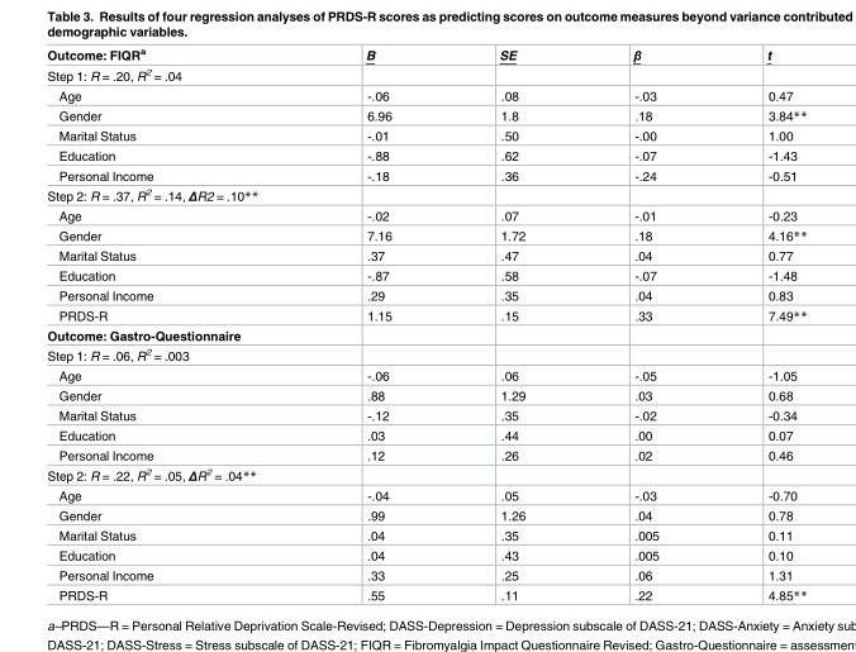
<table><thead><tr><td>Outcome: FIQR<sup>a</sup></td><td>B</td><td>SE</td><td>β</td><td>t</td></tr></thead><tbody><tr><td colspan="5">Step 1: R = .20, R<sup>2</sup> = .04</td></tr><tr><td>Age</td><td>-.06</td><td>.08</td><td>-.03</td><td>0.47</td></tr><tr><td>Gender</td><td>6.96</td><td>1.8</td><td>.18</td><td>3.84**</td></tr><tr><td>Marital Status</td><td>-.01</td><td>.50</td><td>-.00</td><td>1.00</td></tr><tr><td>Education</td><td>-.88</td><td>.62</td><td>-.07</td><td>-1.43</td></tr><tr><td>Personal Income</td><td>-.18</td><td>.36</td><td>-.24</td><td>-0.51</td></tr><tr><td colspan="5">Step 2: R = .37, R<sup>2</sup> = .14, ΔR2 = .10**</td></tr><tr><td>Age</td><td>-.02</td><td>.07</td><td>-.01</td><td>-0.23</td></tr><tr><td>Gender</td><td>7.16</td><td>1.72</td><td>.18</td><td>4.16**</td></tr><tr><td>Marital Status</td><td>.37</td><td>.47</td><td>.04</td><td>0.77</td></tr><tr><td>Education</td><td>-.87</td><td>.58</td><td>-.07</td><td>-1.48</td></tr><tr><td>Personal Income</td><td>.29</td><td>.35</td><td>.04</td><td>0.83</td></tr><tr><td>PRDS-R</td><td>1.15</td><td>.15</td><td>.33</td><td>7.49**</td></tr><tr><td colspan="5">Outcome: Gastro-Questionnaire</td></tr><tr><td colspan="5">Step 1: R = .06, R<sup>2</sup> = .003</td></tr><tr><td>Age</td><td>-.06</td><td>.06</td><td>-.05</td><td>-1.05</td></tr><tr><td>Gender</td><td>.88</td><td>1.29</td><td>.03</td><td>0.68</td></tr><tr><td>Marital Status</td><td>-.12</td><td>.35</td><td>-.02</td><td>-0.34</td></tr><tr><td>Education</td><td>.03</td><td>.44</td><td>.00</td><td>0.07</td></tr><tr><td>Personal Income</td><td>.12</td><td>.26</td><td>.02</td><td>0.46</td></tr><tr><td colspan="5">Step 2: R = .22, R<sup>2</sup> = .05, ΔR<sup>2</sup> = .04**</td></tr><tr><td>Age</td><td>-.04</td><td>.05</td><td>-.03</td><td>-0.70</td></tr><tr><td>Gender</td><td>.99</td><td>1.26</td><td>.04</td><td>0.78</td></tr><tr><td>Marital Status</td><td>.04</td><td>.35</td><td>.005</td><td>0.11</td></tr><tr><td>Education</td><td>.04</td><td>.43</td><td>.005</td><td>0.10</td></tr><tr><td>Personal Income</td><td>.33</td><td>.25</td><td>.06</td><td>1.31</td></tr><tr><td>PRDS-R</td><td>.55</td><td>.11</td><td>.22</td><td>4.85**</td></tr></tbody></table>